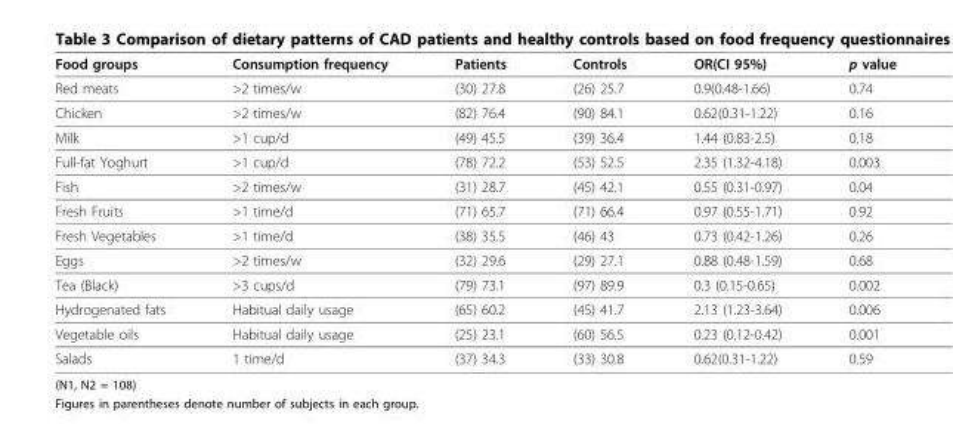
<table><thead><tr><td>Food groups</td><td>Consumption frequency</td><td>Patients</td><td>Controls</td><td>OR(CI 95%)</td><td>p value</td></tr></thead><tbody><tr><td>Red meats</td><td>&gt;2 times/w</td><td>(30) 27.8</td><td>(26) 25.7</td><td>0.9(0.48-1.66)</td><td>0.74</td></tr><tr><td>Chicken</td><td>&gt;2 times/w</td><td>(82) 76.4</td><td>(90) 84.1</td><td>0.62(0.31-1.22)</td><td>0.16</td></tr><tr><td>Milk</td><td>&gt;1 cup/d</td><td>(49) 45.5</td><td>(39) 36.4</td><td>1.44 (0.83-2.5)</td><td>0.18</td></tr><tr><td>Full-fat Yoghurt</td><td>&gt;1 cup/d</td><td>(78) 72.2</td><td>(53) 52.5</td><td>2.35 (1.32-4.18)</td><td>0.003</td></tr><tr><td>Fish</td><td>&gt;2 times/w</td><td>(31) 28.7</td><td>(45) 42.1</td><td>0.55 (0.31-0.97)</td><td>0.04</td></tr><tr><td>Fresh Fruits</td><td>&gt;1 time/d</td><td>(71) 65.7</td><td>(71) 66.4</td><td>0.97 (0.55-1.71)</td><td>0.92</td></tr><tr><td>Fresh Vegetables</td><td>&gt;1 time/d</td><td>(38) 35.5</td><td>(46) 43</td><td>0.73 (0.42-1.26)</td><td>0.26</td></tr><tr><td>Eggs</td><td>&gt;2 times/w</td><td>(32) 29.6</td><td>(29) 27.1</td><td>0.88 (0.48-1.59)</td><td>0.68</td></tr><tr><td>Tea (Black)</td><td>&gt;3 cups/d</td><td>(79) 73.1</td><td>(97) 89.9</td><td>0.3 (0.15-0.65)</td><td>0.002</td></tr><tr><td>Hydrogenated fats</td><td>Habitual daily usage</td><td>(65) 60.2</td><td>(45) 41.7</td><td>2.13 (1.23-3.64)</td><td>0.006</td></tr><tr><td>Vegetable oils</td><td>Habitual daily usage</td><td>(25) 23.1</td><td>(60) 56.5</td><td>0.23 (0.12-0.42)</td><td>0.001</td></tr><tr><td>Salads</td><td>1 time/d</td><td>(37) 34.3</td><td>(33) 30.8</td><td>0.62(0.31-1.22)</td><td>0.59</td></tr></tbody></table>